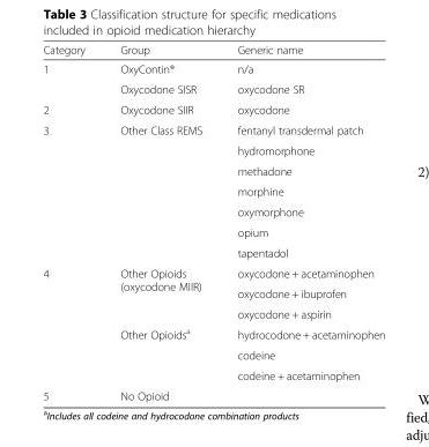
<table><thead><tr><td>Category</td><td>Group</td><td>Generic name</td></tr></thead><tbody><tr><td rowspan="2">1</td><td>OxyContin®</td><td>n/a</td></tr><tr><td>Oxycodone SISR</td><td>oxycodone SR</td></tr><tr><td>2</td><td>Oxycodone SIIR</td><td>oxycodone</td></tr><tr><td rowspan="7">3</td><td rowspan="7">Other Class REMS</td><td>fentanyl transdermal patch</td></tr><tr><td>hydromorphone</td></tr><tr><td>methadone</td></tr><tr><td>morphine</td></tr><tr><td>oxymorphone</td></tr><tr><td>opium</td></tr><tr><td>tapentadol</td></tr><tr><td rowspan="6">4</td><td rowspan="3">Other Opioids (oxycodone MIIR)</td><td>oxycodone + acetaminophen</td></tr><tr><td>oxycodone + ibuprofen</td></tr><tr><td>oxycodone + aspirin</td></tr><tr><td rowspan="3">Other Opioids<sup>a</sup></td><td>hydrocodone + acetaminophen</td></tr><tr><td>codeine</td></tr><tr><td>codeine + acetaminophen</td></tr><tr><td>5</td><td>No Opioid</td><td></td></tr></tbody></table>